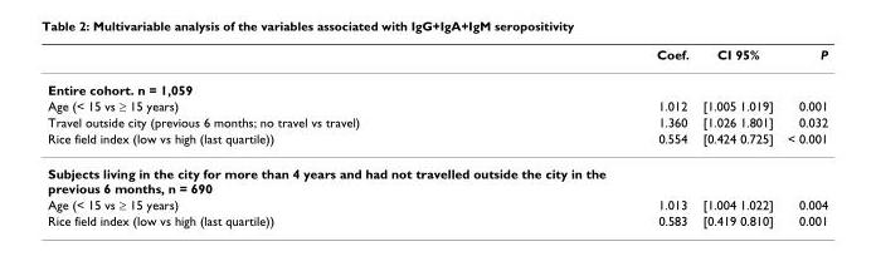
<table><thead><tr><td></td><td>Coef.</td><td>CI 95%</td><td>P</td></tr></thead><tbody><tr><td colspan="4">Entire cohort. n = 1,059</td></tr><tr><td>Age (&lt; 15 vs ≥ 15 years)</td><td>1.012</td><td>[1.005 1.019]</td><td>0.001</td></tr><tr><td>Travel outside city (previous 6 months; no travel vs travel)</td><td>1.360</td><td>[1.026 1.801]</td><td>0.032</td></tr><tr><td>Rice field index (low vs high (last quartile))</td><td>0.554</td><td>[0.424 0.725]</td><td>&lt; 0.001</td></tr><tr><td colspan="4">Subjects living in the city for more than 4 years and had not travelled outside the city in the previous 6 months, n = 690</td></tr><tr><td>Age (&lt; 15 vs ≥ 15 years)</td><td>1.013</td><td>[1.004 1.022]</td><td>0.004</td></tr><tr><td>Rice field index (low vs high (last quartile))</td><td>0.583</td><td>[0.419 0.810]</td><td>0.001</td></tr></tbody></table>